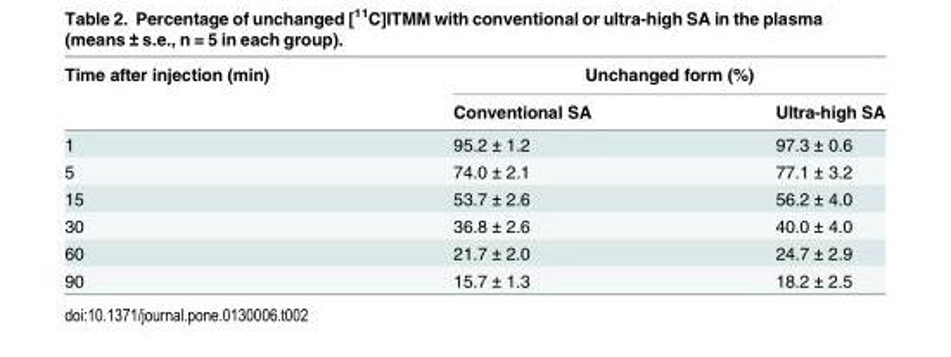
<table><thead><tr><td rowspan="2">Time after injection (min)</td><td colspan="2">Unchanged form (%)</td></tr><tr><td>Conventional SA</td><td>Ultra-high SA</td></tr></thead><tbody><tr><td>1</td><td>95.2 ± 1.2</td><td>97.3 ± 0.6</td></tr><tr><td>5</td><td>74.0 ± 2.1</td><td>77.1 ± 3.2</td></tr><tr><td>15</td><td>53.7 ± 2.6</td><td>56.2 ± 4.0</td></tr><tr><td>30</td><td>36.8 ± 2.6</td><td>40.0 ± 4.0</td></tr><tr><td>60</td><td>21.7 ± 2.0</td><td>24.7 ± 2.9</td></tr><tr><td>90</td><td>15.7 ± 1.3</td><td>18.2 ± 2.5</td></tr></tbody></table>